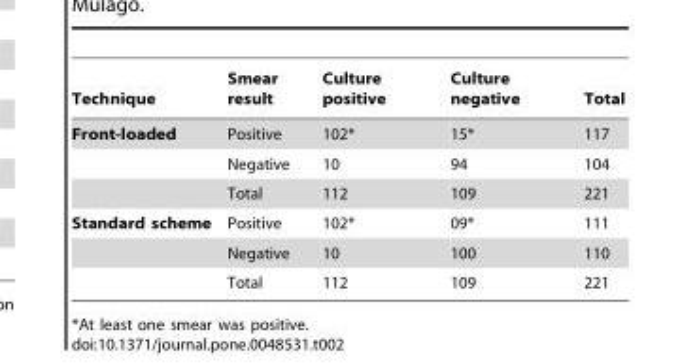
<table><thead><tr><td>Technique</td><td>Smear result</td><td>Culture positive</td><td>Culture negative</td><td>Total</td></tr></thead><tbody><tr><td rowspan="3">Front-loaded</td><td>Positive</td><td>102*</td><td>15*</td><td>117</td></tr><tr><td>Negative</td><td>10</td><td>94</td><td>104</td></tr><tr><td>Total</td><td>112</td><td>109</td><td>221</td></tr><tr><td rowspan="3">Standard scheme</td><td>Positive</td><td>102*</td><td>09*</td><td>111</td></tr><tr><td>Negative</td><td>10</td><td>100</td><td>110</td></tr><tr><td>Total</td><td>112</td><td>109</td><td>221</td></tr></tbody></table>